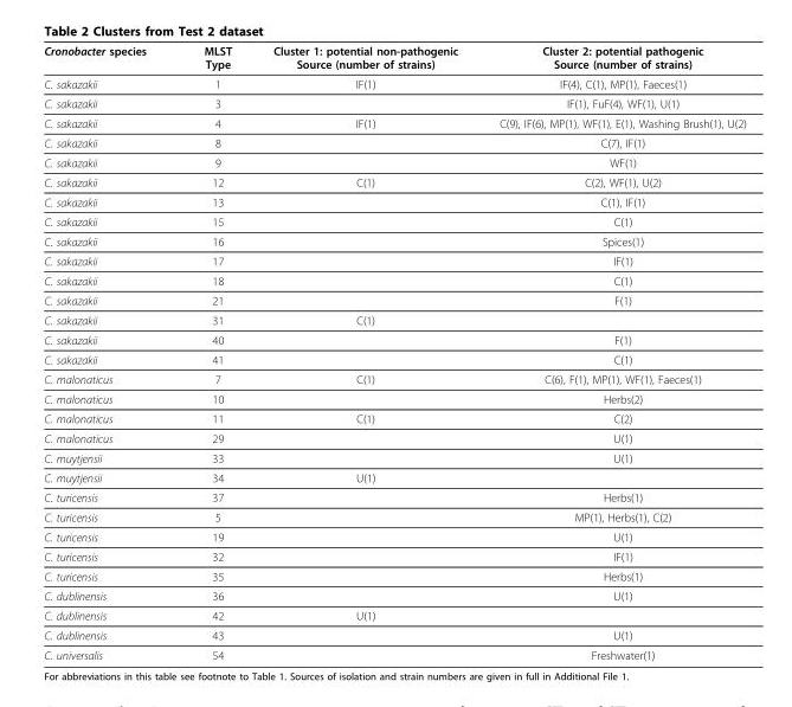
<table><thead><tr><td>Cronobacter species</td><td>MLST Type</td><td>Cluster 1: potential non-pathogenic Source (number of strains)</td><td>Cluster 2: potential pathogenic Source (number of strains)</td></tr></thead><tbody><tr><td>C. sakazakii</td><td>1</td><td>IF(1)</td><td>IF(4), C(1), MP(1), Faeces(1)</td></tr><tr><td>C. sakazakii</td><td>3</td><td></td><td>IF(1), FuF(4), WF(1), U(1)</td></tr><tr><td>C. sakazakii</td><td>4</td><td>IF(1)</td><td>C(9), IF(6), MP(1), WF(1), E(1), Washing Brush(1), U(2)</td></tr><tr><td>C. sakazakii</td><td>8</td><td></td><td>C(7), IF(1)</td></tr><tr><td>C. sakazakii</td><td>9</td><td></td><td>WF(1)</td></tr><tr><td>C. sakazakii</td><td>12</td><td>C(1)</td><td>C(2), WF(1), U(2)</td></tr><tr><td>C. sakazakii</td><td>13</td><td></td><td>C(1), IF(1)</td></tr><tr><td>C. sakazakii</td><td>15</td><td></td><td>C(1)</td></tr><tr><td>C. sakazakii</td><td>16</td><td></td><td>Spices(1)</td></tr><tr><td>C. sakazakii</td><td>17</td><td></td><td>IF(1)</td></tr><tr><td>C. sakazakii</td><td>18</td><td></td><td>C(1)</td></tr><tr><td>C. sakazakii</td><td>21</td><td></td><td>F(1)</td></tr><tr><td>C. sakazakii</td><td>31</td><td>C(1)</td><td></td></tr><tr><td>C. sakazakii</td><td>40</td><td></td><td>F(1)</td></tr><tr><td>C. sakazakii</td><td>41</td><td></td><td>C(1)</td></tr><tr><td>C. malonaticus</td><td>7</td><td>C(1)</td><td>C(6), F(1), MP(1), WF(1), Faeces(1)</td></tr><tr><td>C. malonaticus</td><td>10</td><td></td><td>Herbs(2)</td></tr><tr><td>C. malonaticus</td><td>11</td><td>C(1)</td><td>C(2)</td></tr><tr><td>C. malonaticus</td><td>29</td><td></td><td>U(1)</td></tr><tr><td>C. muytjensii</td><td>33</td><td></td><td>U(1)</td></tr><tr><td>C. muytjensii</td><td>34</td><td>U(1)</td><td></td></tr><tr><td>C. turicensis</td><td>37</td><td></td><td>Herbs(1)</td></tr><tr><td>C. turicensis</td><td>5</td><td></td><td>MP(1), Herbs(1), C(2)</td></tr><tr><td>C. turicensis</td><td>19</td><td></td><td>U(1)</td></tr><tr><td>C. turicensis</td><td>32</td><td></td><td>IF(1)</td></tr><tr><td>C. turicensis</td><td>35</td><td></td><td>Herbs(1)</td></tr><tr><td>C. dublinensis</td><td>36</td><td></td><td>U(1)</td></tr><tr><td>C. dublinensis</td><td>42</td><td>U(1)</td><td></td></tr><tr><td>C. dublinensis</td><td>43</td><td></td><td>U(1)</td></tr><tr><td>C. universalis</td><td>54</td><td></td><td>Freshwater(1)</td></tr></tbody></table>